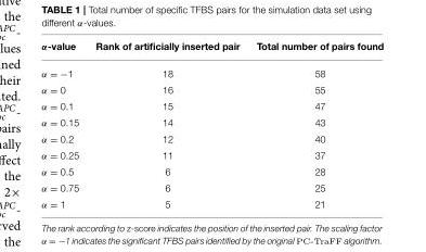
<table><thead><tr><td>α-value</td><td>Rank of artificially inserted pair</td><td>Total number of pairs found</td></tr></thead><tbody><tr><td>α = −1</td><td>18</td><td>58</td></tr><tr><td>α = 0</td><td>16</td><td>55</td></tr><tr><td>α = 0.1</td><td>15</td><td>47</td></tr><tr><td>α = 0.15</td><td>14</td><td>43</td></tr><tr><td>α = 0.2</td><td>12</td><td>40</td></tr><tr><td>α = 0.25</td><td>11</td><td>37</td></tr><tr><td>α = 0.5</td><td>6</td><td>28</td></tr><tr><td>α = 0.75</td><td>6</td><td>25</td></tr><tr><td>α = 1</td><td>5</td><td>21</td></tr></tbody></table>